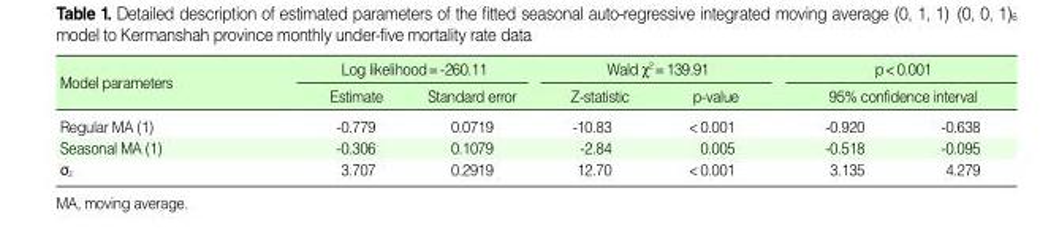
<table><thead><tr><td rowspan="3">M odel parameters Regular MA (1)</td><td colspan="2">Log likelihood=-260.11</td><td colspan="2">Wald χ<sup>2</sup>=139.91</td><td rowspan="2" colspan="2">p&lt;0.001 95% confidence interval</td></tr><tr><td rowspan="2">Estimate -0.779</td><td rowspan="2">Standard error 0.0719</td><td rowspan="2">Z-statistic -10.83</td><td rowspan="2">p-value &lt;0.001</td></tr><tr><td>-0.920</td><td>-0.638</td></tr></thead><tbody><tr><td>Seasonal MA (1)</td><td>-0.306</td><td>0.1079</td><td>-2.84</td><td>0.005</td><td>-0.518</td><td>-0.095</td></tr><tr><td>σ<sub>z</sub></td><td>3.707</td><td>0.2919</td><td>12.70</td><td>&lt;0.001</td><td>3.135</td><td>4.279</td></tr></tbody></table>